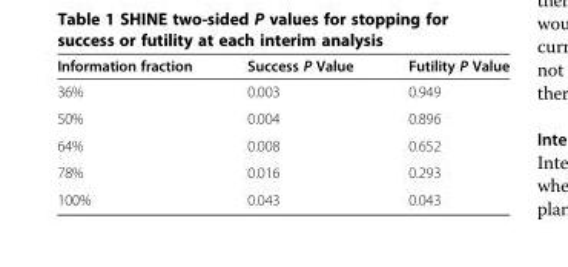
<table><thead><tr><td>Information fraction</td><td>Success P Value</td><td>Futility P Value</td></tr></thead><tbody><tr><td>36%</td><td>0.003</td><td>0.949</td></tr><tr><td>50%</td><td>0.004</td><td>0.896</td></tr><tr><td>64%</td><td>0.008</td><td>0.652</td></tr><tr><td>78%</td><td>0.016</td><td>0.293</td></tr><tr><td>100%</td><td>0.043</td><td>0.043</td></tr></tbody></table>